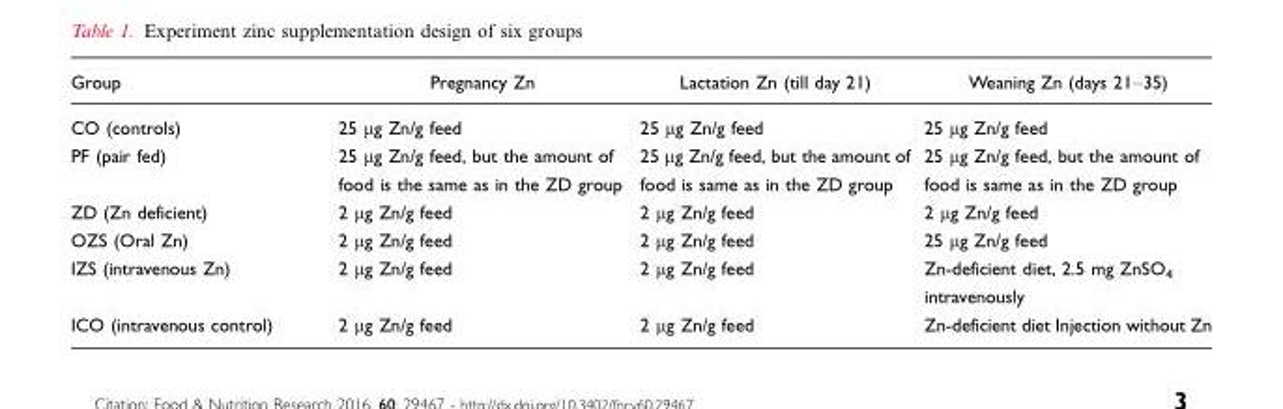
<table><thead><tr><td>Group</td><td>Pregnancy Zn</td><td>Lactation Zn (till day 21)</td><td>Weaning Zn (days 21–35)</td></tr></thead><tbody><tr><td>CO (controls)</td><td>25 µg Zn/g feed</td><td>25 µg Zn/g feed</td><td>25 µg Zn/g feed</td></tr><tr><td>PF (pair fed)</td><td>25 µg Zn/g feed, but the amount of food is the same as in the ZD group</td><td>25 µg Zn/g feed, but the amount of food is same as in the ZD group</td><td>25 µg Zn/g feed, but the amount of food is same as in the ZD group</td></tr><tr><td>ZD (Zn deficient)</td><td>2 µg Zn/g feed</td><td>2 µg Zn/g feed</td><td>2 µg Zn/g feed</td></tr><tr><td>OZS (Oral Zn)</td><td>2 µg Zn/g feed</td><td>2 µg Zn/g feed</td><td>25 µg Zn/g feed</td></tr><tr><td>IZS (intravenous Zn)</td><td>2 µg Zn/g feed</td><td>2 µg Zn/g feed</td><td>Zn-deficient diet, 2.5 mg ZnSO<sub>4</sub> intravenously</td></tr><tr><td>ICO (intravenous control)</td><td>2 µg Zn/g feed</td><td>2 µg Zn/g feed</td><td>Zn-deficient diet Injection without Zn</td></tr></tbody></table>